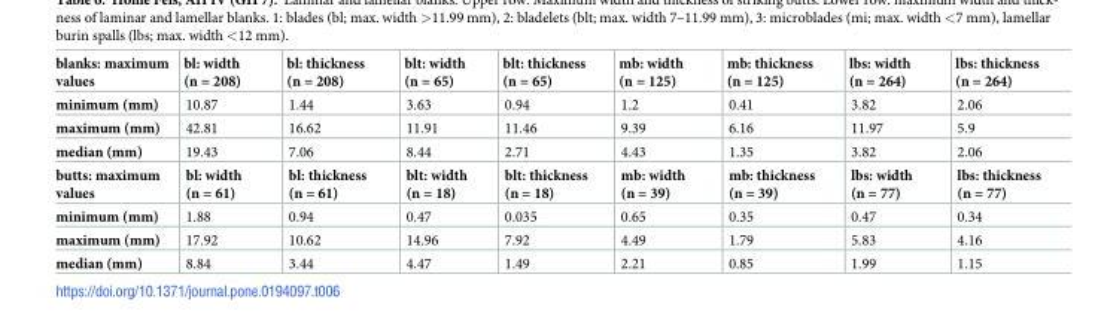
<table><thead><tr><td>blanks: maximum values</td><td>bl: width (n = 208)</td><td>bl: thickness (n = 208)</td><td>blt: width (n = 65)</td><td>blt: thickness (n = 65)</td><td>mb: width (n = 125)</td><td>mb: thickness (n = 125)</td><td>lbs: width (n = 264)</td><td>lbs: thickness (n = 264)</td></tr></thead><tbody><tr><td>minimum (mm)</td><td>10.87</td><td>1.44</td><td>3.63</td><td>0.94</td><td>1.2</td><td>0.41</td><td>3.82</td><td>2.06</td></tr><tr><td>maximum (mm)</td><td>42.81</td><td>16.62</td><td>11.91</td><td>11.46</td><td>9.39</td><td>6.16</td><td>11.97</td><td>5.9</td></tr><tr><td>median (mm)</td><td>19.43</td><td>7.06</td><td>8.44</td><td>2.71</td><td>4.43</td><td>1.35</td><td>3.82</td><td>2.06</td></tr><tr><td>butts: maximum values</td><td>bl: width (n = 61)</td><td>bl: thickness (n = 61)</td><td>blt: width (n = 18)</td><td>blt: thickness (n = 18)</td><td>mb: width (n = 39)</td><td>mb: thickness (n = 39)</td><td>lbs: width (n = 77)</td><td>lbs: thickness (n = 77)</td></tr><tr><td>minimum (mm)</td><td>1.88</td><td>0.94</td><td>0.47</td><td>0.035</td><td>0.65</td><td>0.35</td><td>0.47</td><td>0.34</td></tr><tr><td>maximum (mm)</td><td>17.92</td><td>10.62</td><td>14.96</td><td>7.92</td><td>4.49</td><td>1.79</td><td>5.83</td><td>4.16</td></tr><tr><td>median (mm)</td><td>8.84</td><td>3.44</td><td>4.47</td><td>1.49</td><td>2.21</td><td>0.85</td><td>1.99</td><td>1.15</td></tr></tbody></table>